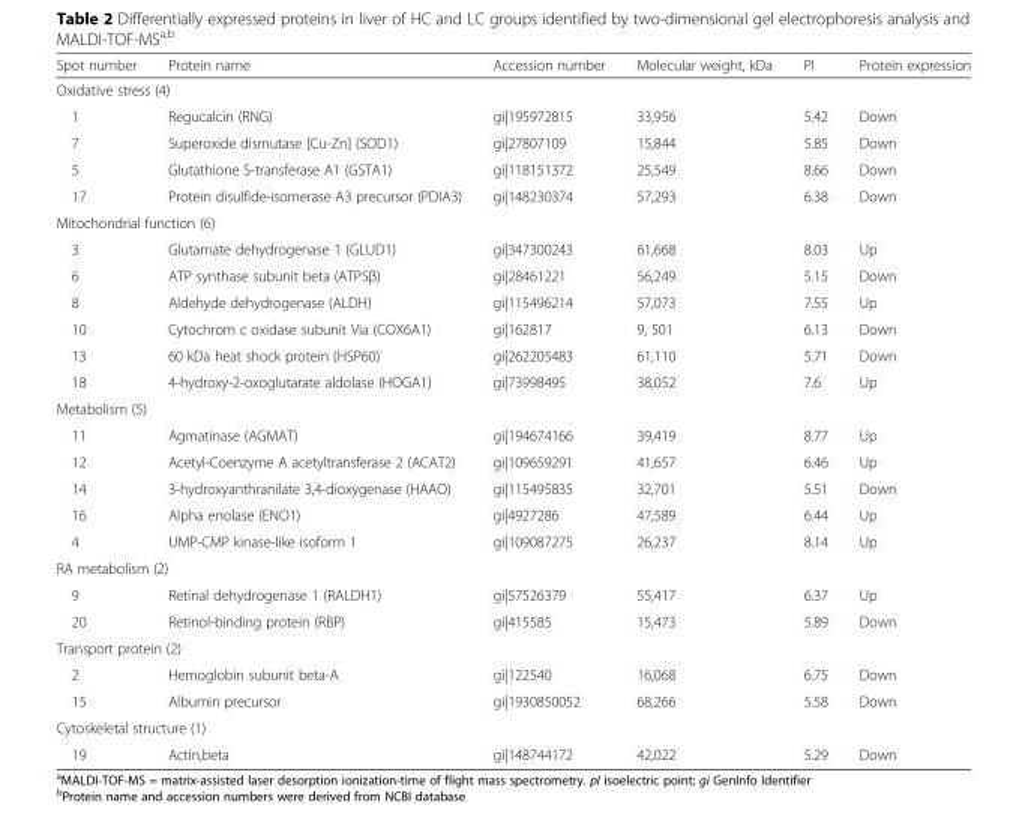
<table><thead><tr><td>Spot number</td><td>Protein name</td><td>Accession number</td><td>Molecular weight, kDa</td><td>PI</td><td>Protein expression</td></tr></thead><tbody><tr><td colspan="6">Oxidative stress (4)</td></tr><tr><td>1</td><td>Regucalcin (RNG)</td><td>gi|195972815</td><td>33,956</td><td>5.42</td><td>Down</td></tr><tr><td>7</td><td>Superoxide dismutase [Cu-Zn] (SOD1)</td><td>gi|27807109</td><td>15,844</td><td>5.85</td><td>Down</td></tr><tr><td>5</td><td>Glutathione S-transferase A1 (GSTA1)</td><td>gi|118151372</td><td>25,549</td><td>8.66</td><td>Down</td></tr><tr><td>17</td><td>Protein disulfide-isomerase A3 precursor (PDIA3)</td><td>gi|148230374</td><td>57,293</td><td>6.38</td><td>Down</td></tr><tr><td colspan="6">Mitochondrial function (6)</td></tr><tr><td>3</td><td>Glutamate dehydrogenase 1 (GLUD1)</td><td>gi|347300243</td><td>61,668</td><td>8.03</td><td>Up</td></tr><tr><td>6</td><td>ATP synthase subunit beta (ATPSβ)</td><td>gi|28461221</td><td>56,249</td><td>5.15</td><td>Down</td></tr><tr><td>8</td><td>Aldehyde dehydrogenase (ALDH)</td><td>gi|115496214</td><td>57,073</td><td>7.55</td><td>Up</td></tr><tr><td>10</td><td>Cytochrom c oxidase subunit Via (COX6A1)</td><td>gi|162817</td><td>9, 501</td><td>6.13</td><td>Down</td></tr><tr><td>13</td><td>60 kDa heat shock protein (HSP60)</td><td>gi|262205483</td><td>61,110</td><td>5.71</td><td>Down</td></tr><tr><td>18</td><td>4-hydroxy-2-oxoglutarate aldolase (HOGA1)</td><td>gi|73998495</td><td>38,052</td><td>7.6</td><td>Up</td></tr><tr><td colspan="6">Metabolism (5)</td></tr><tr><td>11</td><td>Agmatinase (AGMAT)</td><td>gi|194674166</td><td>39,419</td><td>8.77</td><td>Up</td></tr><tr><td>12</td><td>Acetyl-Coenzyme A acetyltransferase 2 (ACAT2)</td><td>gi|109659291</td><td>41,657</td><td>6.46</td><td>Up</td></tr><tr><td>14</td><td>3-hydroxyanthranilate 3,4-dioxygenase (HAAO)</td><td>gi|115495835</td><td>32,701</td><td>5.51</td><td>Down</td></tr><tr><td>16</td><td>Alpha enolase (ENO1)</td><td>gi|4927286</td><td>47,589</td><td>6.44</td><td>Up</td></tr><tr><td>4</td><td>UMP-CMP kinase-like isoform 1</td><td>gi|109087275</td><td>26,237</td><td>8.14</td><td>Up</td></tr><tr><td colspan="6">RA metabolism (2)</td></tr><tr><td>9</td><td>Retinal dehydrogenase 1 (RALDH1)</td><td>gi|57526379</td><td>55,417</td><td>6.37</td><td>Up</td></tr><tr><td>20</td><td>Retinol-binding protein (RBP)</td><td>gi|415585</td><td>15,473</td><td>5.89</td><td>Down</td></tr><tr><td colspan="6">Transport protein (2)</td></tr><tr><td>2</td><td>Hemoglobin subunit beta-A</td><td>gi|122540</td><td>16,068</td><td>6.75</td><td>Down</td></tr><tr><td>15</td><td>Albumin precursor</td><td>gi|1930850052</td><td>68,266</td><td>5.58</td><td>Down</td></tr><tr><td colspan="6">Cytoskeletal structure (1)</td></tr><tr><td>19</td><td>Actin,beta</td><td>gi|148744172</td><td>42,022</td><td>5.29</td><td>Down</td></tr></tbody></table>